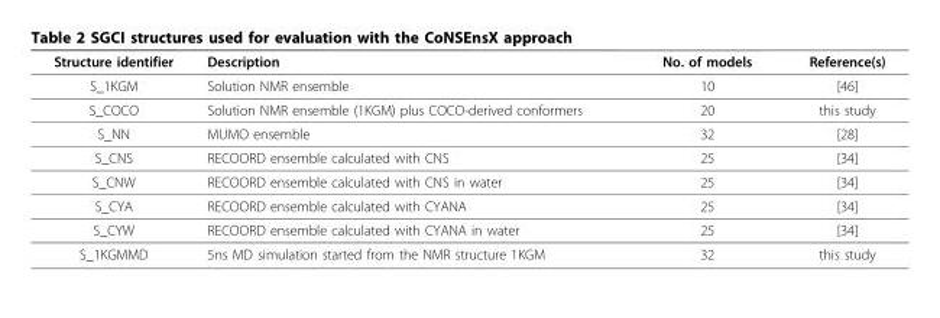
<table><thead><tr><td>Structure identifier</td><td>Description</td><td>No. of models</td><td>Reference(s)</td></tr></thead><tbody><tr><td>S_1KGM</td><td>Solution NMR ensemble</td><td>10</td><td>[46]</td></tr><tr><td>S_COCO</td><td>Solution NMR ensemble (1KGM) plus COCO-derived conformers</td><td>20</td><td>this study</td></tr><tr><td>S_NN</td><td>MUMO ensemble</td><td>32</td><td>[28]</td></tr><tr><td>S_CNS</td><td>RECOORD ensemble calculated with CNS</td><td>25</td><td>[34]</td></tr><tr><td>S_CNW</td><td>RECOORD ensemble calculated with CNS in water</td><td>25</td><td>[34]</td></tr><tr><td>S_CYA</td><td>RECOORD ensemble calculated with CYANA</td><td>25</td><td>[34]</td></tr><tr><td>S_CYW</td><td>RECOORD ensemble calculated with CYANA in water</td><td>25</td><td>[34]</td></tr><tr><td>S_1KGMMD</td><td>5ns MD simulation started from the NMR structure 1KGM</td><td>32</td><td>this study</td></tr></tbody></table>